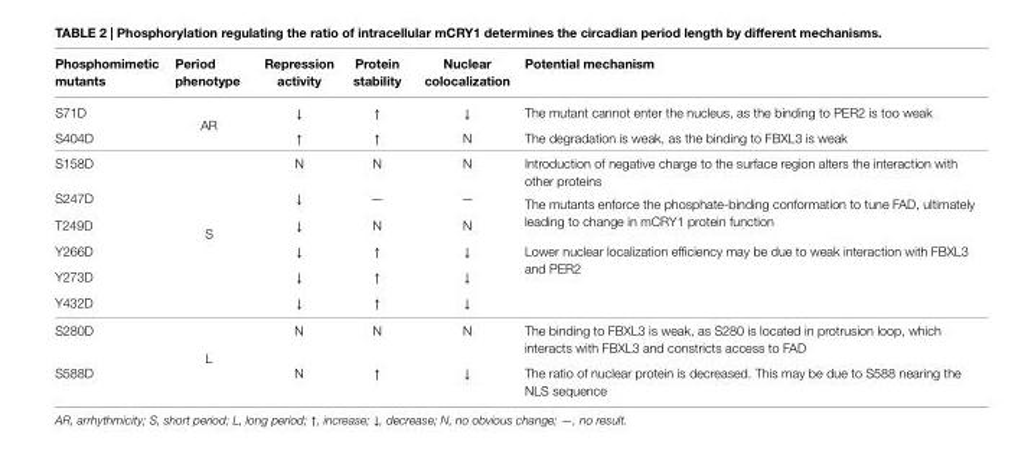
<table><thead><tr><td>Phosphomimetic mutants</td><td>Period phenotype</td><td>repression activity</td><td>Protein stability</td><td>nuclear colocalization</td><td>Potential mechanism</td></tr></thead><tbody><tr><td>S71D</td><td rowspan="2">AR</td><td>↓</td><td>↑</td><td>↓</td><td>The mutant cannot enter the nucleus, as the binding to PER2 is too weak</td></tr><tr><td>S404D</td><td>↑</td><td>↑</td><td>N</td><td>The degradation is weak, as the binding to FBXL3 is weak</td></tr><tr><td>S158D</td><td rowspan="6">S</td><td>N</td><td>N</td><td>N</td><td>Introduction of negative charge to the surface region alters the interaction with other proteins</td></tr><tr><td>S247D</td><td>↓</td><td>—</td><td>—</td><td rowspan="2">The mutants enforce the phosphate-binding conformation to tune FAD, ultimately leading to change in mCRY1 protein function</td></tr><tr><td>T249D</td><td>↓</td><td>N</td><td>N</td></tr><tr><td>Y266D</td><td>↓</td><td>↑</td><td>↓</td><td rowspan="3">Lower nuclear localization efficiency may be due to weak interaction with FBXL3 and PER2</td></tr><tr><td>Y273D</td><td>↓</td><td>↑</td><td>↓</td></tr><tr><td>Y432D</td><td>↓</td><td>↑</td><td>↓</td></tr><tr><td>S280D</td><td rowspan="2">L</td><td>N</td><td>N</td><td>N</td><td>The binding to FBXL3 is weak, as S280 is located in protrusion loop, which interacts with FBXL3 and constricts access to FAD</td></tr><tr><td>S588D</td><td>N</td><td>↑</td><td>↓</td><td>The ratio of nuclear protein is decreased. This may be due to S588 nearing the NLS sequence</td></tr></tbody></table>